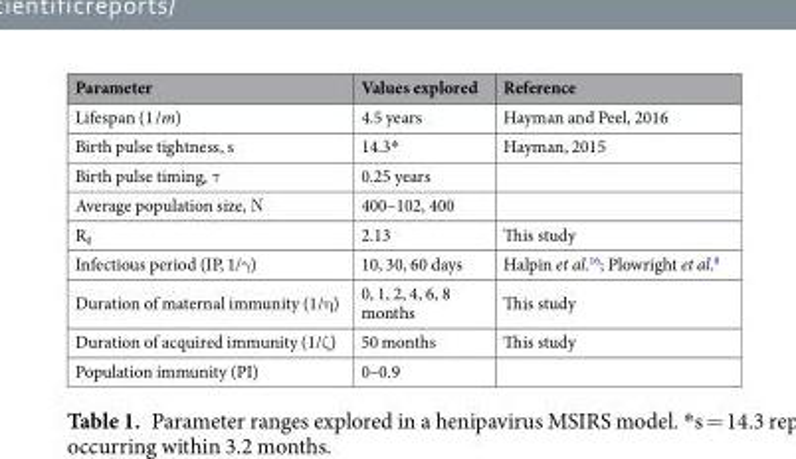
<table><thead><tr><td>Parameter</td><td>Values explored</td><td>Reference</td></tr></thead><tbody><tr><td>Lifespan (1 /m)</td><td>4.5 years</td><td>Hayman and Peel, 2016</td></tr><tr><td>Birth pulse tightness, s</td><td>14.3*</td><td>Hayman, 2015</td></tr><tr><td>Birth pulse timing, τ</td><td>0.25 years</td><td></td></tr><tr><td>Average population size, Ν</td><td>400–102, 400</td><td></td></tr><tr><td>R<sub>0</sub></td><td>2.13</td><td>This study</td></tr><tr><td>Infectious period (IP, 1/γ)</td><td>10, 30, 60 days</td><td>Halpin et al.<sup>16</sup>; Plowright et al.<sup>8</sup></td></tr><tr><td>Duration of maternal immunity (1/η)</td><td>0, 1, 2, 4, 6, 8 months</td><td>This study</td></tr><tr><td>Duration of acquired immunity (1/ζ)</td><td>50 months</td><td>This study</td></tr><tr><td>Population immunity (PI)</td><td>0–0.9</td><td></td></tr></tbody></table>